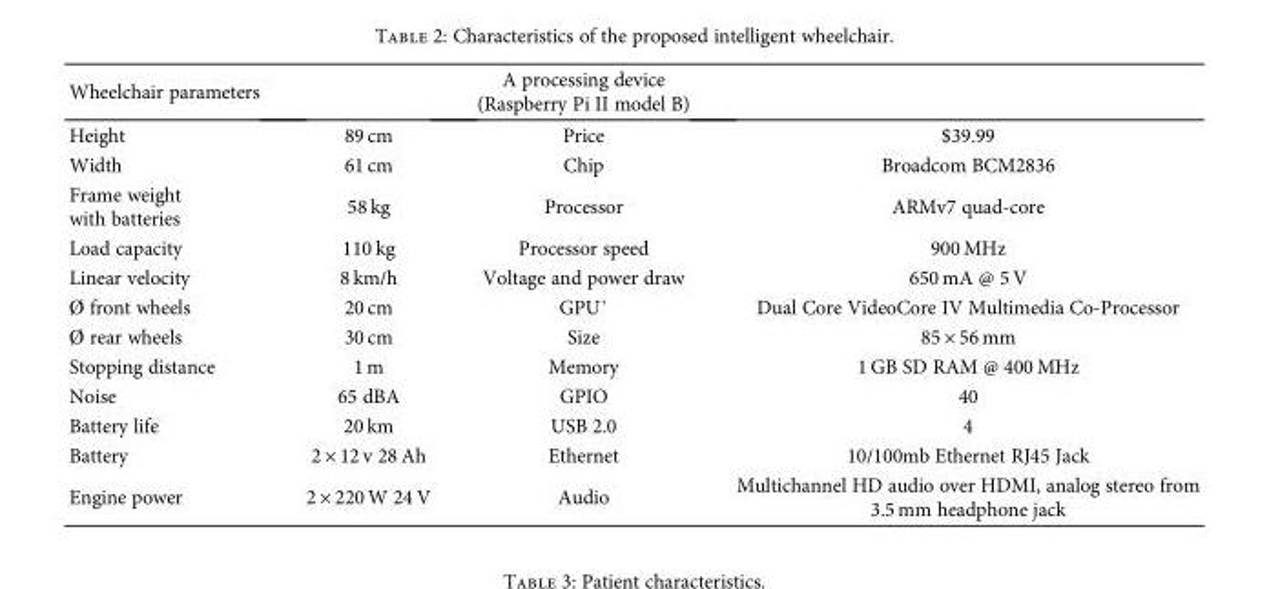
<table><thead><tr><td>Wheelchair parameters</td><td></td><td>A processing device (Raspberry Pi II model B)</td><td></td></tr></thead><tbody><tr><td>Height</td><td>89 cm</td><td>Price</td><td>$39.99</td></tr><tr><td>Width</td><td>61 cm</td><td>Chip</td><td>Broadcom BCM2836</td></tr><tr><td>Frame weight with batteries</td><td>58 kg</td><td>Processor</td><td>ARMv7 quad-core</td></tr><tr><td>Load capacity</td><td>110 kg</td><td>Processor speed</td><td>900 MHz</td></tr><tr><td>Linear velocity</td><td>8 km/h</td><td>Voltage and power draw</td><td>650 mA @ 5 V</td></tr><tr><td>Ø front wheels</td><td>20 cm</td><td>GPU`</td><td>Dual Core VideoCore IV Multimedia Co-Processor</td></tr><tr><td>Ø rear wheels</td><td>30 cm</td><td>Size</td><td>85 × 56 mm</td></tr><tr><td>Stopping distance</td><td>1 m</td><td>Memory</td><td>1 GB SD RAM @ 400 MHz</td></tr><tr><td>Noise</td><td>65 dBA</td><td>GPIO</td><td>40</td></tr><tr><td>Battery life</td><td>20 km</td><td>USB 2.0</td><td>4</td></tr><tr><td>Battery</td><td>2 × 12 v 28 Ah</td><td>Ethernet</td><td>10/100mb Ethernet RJ45 Jack</td></tr><tr><td>Engine power</td><td>2 × 220 W 24 V</td><td>Audio</td><td>Multichannel HD audio over HDMI, analog stereo from 3.5 mm headphone jack</td></tr></tbody></table>